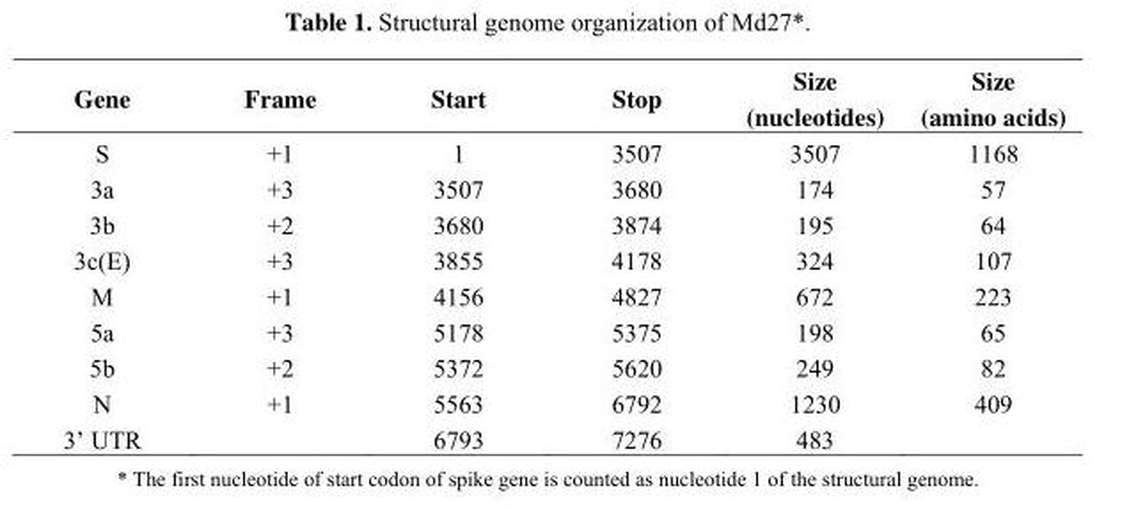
<table><thead><tr><td>Gene</td><td>Frame</td><td>Start</td><td>Stop</td><td>Size (nucleotides)</td><td>Size (amino acids)</td></tr></thead><tbody><tr><td>S</td><td>+1</td><td>1</td><td>3507</td><td>3507</td><td>1168</td></tr><tr><td>3a</td><td>+3</td><td>3507</td><td>3680</td><td>174</td><td>57</td></tr><tr><td>3b</td><td>+2</td><td>3680</td><td>3874</td><td>195</td><td>64</td></tr><tr><td>3c(E)</td><td>+3</td><td>3855</td><td>4178</td><td>324</td><td>107</td></tr><tr><td>M</td><td>+1</td><td>4156</td><td>4827</td><td>672</td><td>223</td></tr><tr><td>5a</td><td>+3</td><td>5178</td><td>5375</td><td>198</td><td>65</td></tr><tr><td>5b</td><td>+2</td><td>5372</td><td>5620</td><td>249</td><td>82</td></tr><tr><td>N</td><td>+1</td><td>5563</td><td>6792</td><td>1230</td><td>409</td></tr><tr><td>3’ UTR</td><td></td><td>6793</td><td>7276</td><td>483</td><td></td></tr></tbody></table>